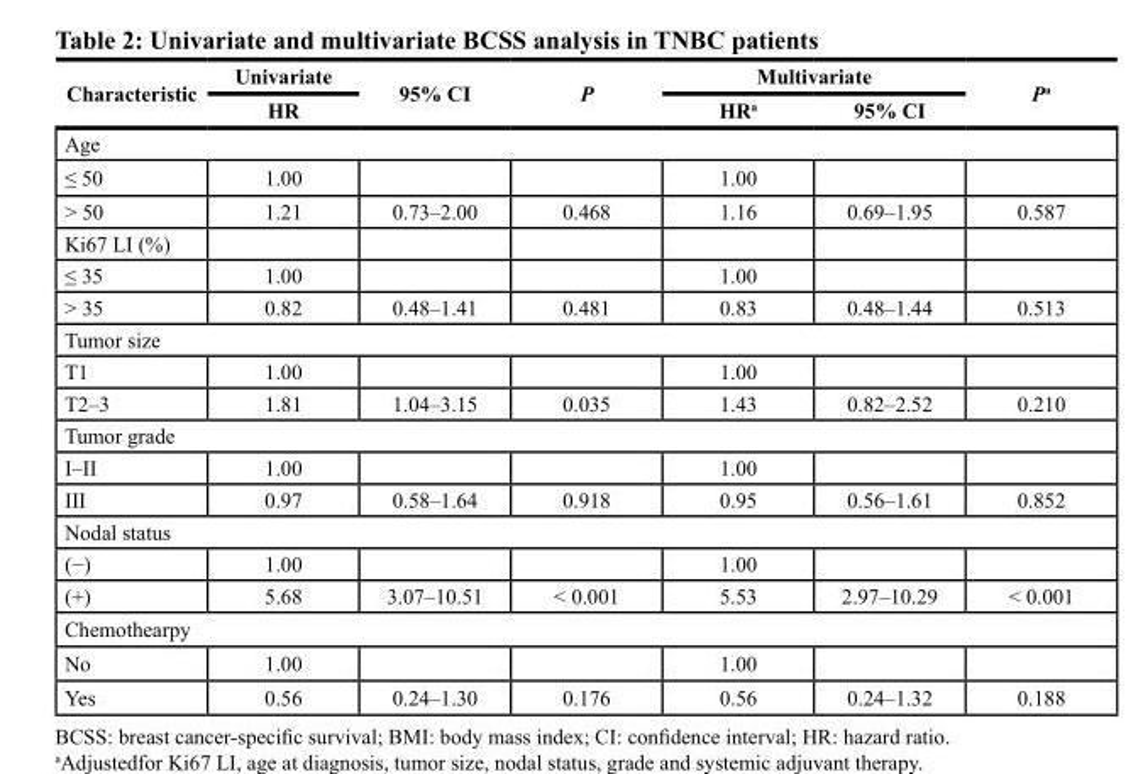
<table><thead><tr><td rowspan="2">characteristic</td><td rowspan="2">Univariate Hr</td><td rowspan="2">95% cI</td><td rowspan="2">P</td><td colspan="2">Multivariate</td><td rowspan="2">P<sup>a</sup></td></tr><tr><td>Hr<sup>a</sup></td><td>95% cI</td></tr></thead><tbody><tr><td colspan="7">Age</td></tr><tr><td>≤ 50</td><td>1.00</td><td></td><td></td><td>1.00</td><td></td><td></td></tr><tr><td>&gt; 50</td><td>1.21</td><td>0.73–2.00</td><td>0.468</td><td>1.16</td><td>0.69–1.95</td><td>0.587</td></tr><tr><td colspan="7">Ki67 LI (%)</td></tr><tr><td>≤ 35</td><td>1.00</td><td></td><td></td><td>1.00</td><td></td><td></td></tr><tr><td>&gt; 35</td><td>0.82</td><td>0.48–1.41</td><td>0.481</td><td>0.83</td><td>0.48–1.44</td><td>0.513</td></tr><tr><td colspan="7">Tumor size</td></tr><tr><td>T1</td><td>1.00</td><td></td><td></td><td>1.00</td><td></td><td></td></tr><tr><td>T2–3</td><td>1.81</td><td>1.04–3.15</td><td>0.035</td><td>1.43</td><td>0.82–2.52</td><td>0.210</td></tr><tr><td colspan="7">Tumor grade</td></tr><tr><td>I–II</td><td>1.00</td><td></td><td></td><td>1.00</td><td></td><td></td></tr><tr><td>III</td><td>0.97</td><td>0.58–1.64</td><td>0.918</td><td>0.95</td><td>0.56–1.61</td><td>0.852</td></tr><tr><td colspan="7">Nodal status</td></tr><tr><td>(−)</td><td>1.00</td><td></td><td></td><td>1.00</td><td></td><td></td></tr><tr><td>(+)</td><td>5.68</td><td>3.07–10.51</td><td>&lt; 0.001</td><td>5.53</td><td>2.97–10.29</td><td>&lt; 0.001</td></tr><tr><td colspan="7">Chemothearpy</td></tr><tr><td>No</td><td>1.00</td><td></td><td></td><td>1.00</td><td></td><td></td></tr><tr><td>Yes</td><td>0.56</td><td>0.24–1.30</td><td>0.176</td><td>0.56</td><td>0.24–1.32</td><td>0.188</td></tr></tbody></table>